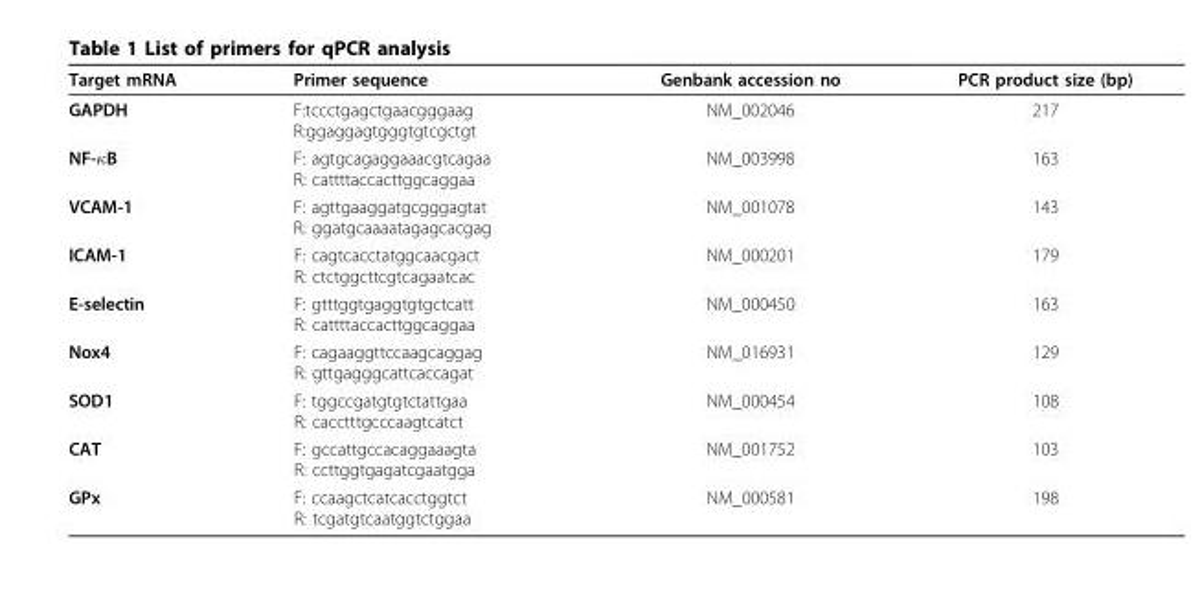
<table><thead><tr><td>Target mRNA</td><td>Primer sequence</td><td>Genbank accession no</td><td>PCR product size (bp)</td></tr></thead><tbody><tr><td>GAPDH</td><td>F:tccctgagctgaacgggaag R:ggaggagtgggtgtcgctgt</td><td>NM_002046</td><td>217</td></tr><tr><td>NF-κB</td><td>F: agtgcagaggaaacgtcagaa R: cattttaccacttggcaggaa</td><td>NM_003998</td><td>163</td></tr><tr><td>VCAM-1</td><td>F: agttgaaggatgcgggagtat R: ggatgcaaaatagagcacgag</td><td>NM_001078</td><td>143</td></tr><tr><td>ICAM-1</td><td>F: cagtcacctatggcaacgact R: ctctggcttcgtcagaatcac</td><td>NM_000201</td><td>179</td></tr><tr><td>E-selectin</td><td>F: gtttggtgaggtgtgctcatt R: cattttaccacttggcaggaa</td><td>NM_000450</td><td>163</td></tr><tr><td>Nox4</td><td>F: cagaaggttccaagcaggag R: gttgagggcattcaccagat</td><td>NM_016931</td><td>129</td></tr><tr><td>SOD1</td><td>F: tggccgatgtgtctattgaa R: cacctttgcccaagtcatct</td><td>NM_000454</td><td>108</td></tr><tr><td>CAT</td><td>F: gccattgccacaggaaagta R: ccttggtgagatcgaatgga</td><td>NM_001752</td><td>103</td></tr><tr><td>GPx</td><td>F: ccaagctcatcacctggtct R: tcgatgtcaatggtctggaa</td><td>NM_000581</td><td>198</td></tr></tbody></table>